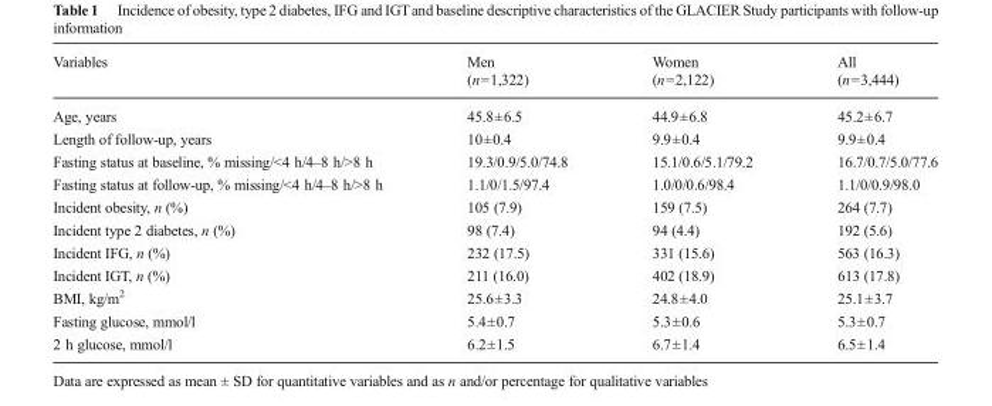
<table><thead><tr><td rowspan="2">Variables</td><td rowspan="2">Men (n=1,322)</td><td rowspan="2">Women (n=2,122)</td><td rowspan="2">All (n=3,444)</td></tr><tr></tr></thead><tbody><tr><td>Age, years</td><td>45.8±6.5</td><td>44.9±6.8</td><td>45.2±6.7</td></tr><tr><td>Length of follow-up, years</td><td>10±0.4</td><td>9.9±0.4</td><td>9.9±0.4</td></tr><tr><td>Fasting status at baseline, % missing/&lt;4 h/4–8 h/&gt;8 h</td><td>19.3/0.9/5.0/74.8</td><td>15.1/0.6/5.1/79.2</td><td>16.7/0.7/5.0/77.6</td></tr><tr><td>Fasting status at follow-up, % missing/&lt;4 h/4–8 h/&gt;8 h</td><td>1.1/0/1.5/97.4</td><td>1.0/0/0.6/98.4</td><td>1.1/0/0.9/98.0</td></tr><tr><td>Incident obesity, n (%)</td><td>105 (7.9)</td><td>159 (7.5)</td><td>264 (7.7)</td></tr><tr><td>Incident type 2 diabetes, n (%)</td><td>98 (7.4)</td><td>94 (4.4)</td><td>192 (5.6)</td></tr><tr><td>Incident IFG, n (%)</td><td>232 (17.5)</td><td>331 (15.6)</td><td>563 (16.3)</td></tr><tr><td>Incident IGT, n (%)</td><td>211 (16.0)</td><td>402 (18.9)</td><td>613 (17.8)</td></tr><tr><td>BMI, kg/m<sup>2</sup></td><td>25.6±3.3</td><td>24.8±4.0</td><td>25.1±3.7</td></tr><tr><td>Fasting glucose, mmol/l</td><td>5.4±0.7</td><td>5.3±0.6</td><td>5.3±0.7</td></tr><tr><td>2 h glucose, mmol/l</td><td>6.2±1.5</td><td>6.7±1.4</td><td>6.5±1.4</td></tr></tbody></table>